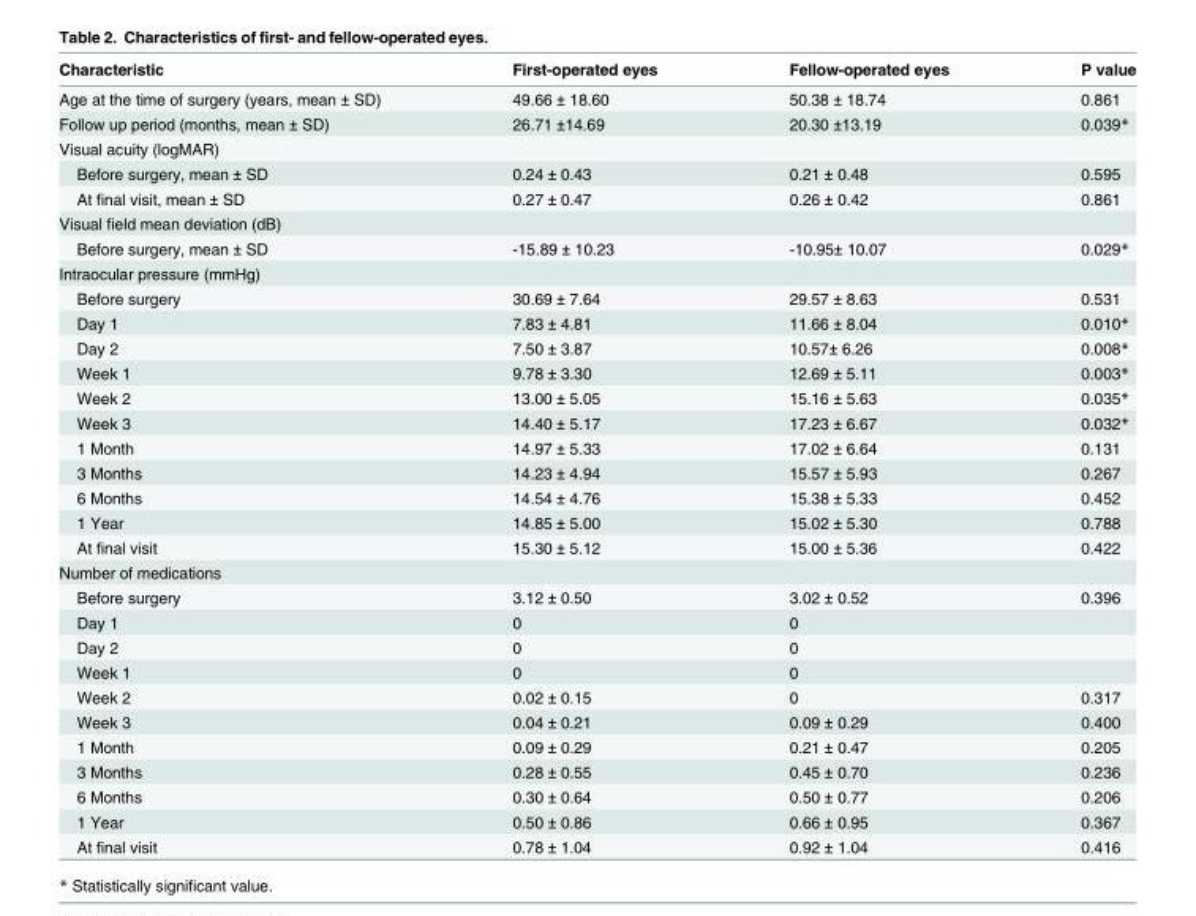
<table><thead><tr><td>Characteristic</td><td>First-operated eyes</td><td>Fellow-operated eyes</td><td>P value</td></tr></thead><tbody><tr><td>Age at the time of surgery (years, mean ± SD)</td><td>49.66 ± 18.60</td><td>50.38 ± 18.74</td><td>0.861</td></tr><tr><td>Follow up period (months, mean ± SD)</td><td>26.71 ±14.69</td><td>20.30 ±13.19</td><td>0.039*</td></tr><tr><td colspan="4">Visual acuity (logMAR)</td></tr><tr><td>Before surgery, mean ± SD</td><td>0.24 ± 0.43</td><td>0.21 ± 0.48</td><td>0.595</td></tr><tr><td>At final visit, mean ± SD</td><td>0.27 ± 0.47</td><td>0.26 ± 0.42</td><td>0.861</td></tr><tr><td colspan="4">Visual field mean deviation (dB)</td></tr><tr><td>Before surgery, mean ± SD</td><td>-15.89 ± 10.23</td><td>-10.95± 10.07</td><td>0.029*</td></tr><tr><td colspan="4">Intraocular pressure (mmHg)</td></tr><tr><td>Before surgery</td><td>30.69 ± 7.64</td><td>29.57 ± 8.63</td><td>0.531</td></tr><tr><td>Day 1</td><td>7.83 ± 4.81</td><td>11.66 ± 8.04</td><td>0.010*</td></tr><tr><td>Day 2</td><td>7.50 ± 3.87</td><td>10.57± 6.26</td><td>0.008*</td></tr><tr><td>Week 1</td><td>9.78 ± 3.30</td><td>12.69 ± 5.11</td><td>0.003*</td></tr><tr><td>Week 2</td><td>13.00 ± 5.05</td><td>15.16 ± 5.63</td><td>0.035*</td></tr><tr><td>Week 3</td><td>14.40 ± 5.17</td><td>17.23 ± 6.67</td><td>0.032*</td></tr><tr><td>1 Month</td><td>14.97 ± 5.33</td><td>17.02 ± 6.64</td><td>0.131</td></tr><tr><td>3 Months</td><td>14.23 ± 4.94</td><td>15.57 ± 5.93</td><td>0.267</td></tr><tr><td>6 Months</td><td>14.54 ± 4.76</td><td>15.38 ± 5.33</td><td>0.452</td></tr><tr><td>1 Year</td><td>14.85 ± 5.00</td><td>15.02 ± 5.30</td><td>0.788</td></tr><tr><td>At final visit</td><td>15.30 ± 5.12</td><td>15.00 ± 5.36</td><td>0.422</td></tr><tr><td colspan="4">Number of medications</td></tr><tr><td>Before surgery</td><td>3.12 ± 0.50</td><td>3.02 ± 0.52</td><td>0.396</td></tr><tr><td>Day 1</td><td>0</td><td>0</td><td></td></tr><tr><td>Day 2</td><td>0</td><td>0</td><td></td></tr><tr><td>Week 1</td><td>0</td><td>0</td><td></td></tr><tr><td>Week 2</td><td>0.02 ± 0.15</td><td>0</td><td>0.317</td></tr><tr><td>Week 3</td><td>0.04 ± 0.21</td><td>0.09 ± 0.29</td><td>0.400</td></tr><tr><td>1 Month</td><td>0.09 ± 0.29</td><td>0.21 ± 0.47</td><td>0.205</td></tr><tr><td>3 Months</td><td>0.28 ± 0.55</td><td>0.45 ± 0.70</td><td>0.236</td></tr><tr><td>6 Months</td><td>0.30 ± 0.64</td><td>0.50 ± 0.77</td><td>0.206</td></tr><tr><td>1 Year</td><td>0.50 ± 0.86</td><td>0.66 ± 0.95</td><td>0.367</td></tr><tr><td>At final visit</td><td>0.78 ± 1.04</td><td>0.92 ± 1.04</td><td>0.416</td></tr></tbody></table>